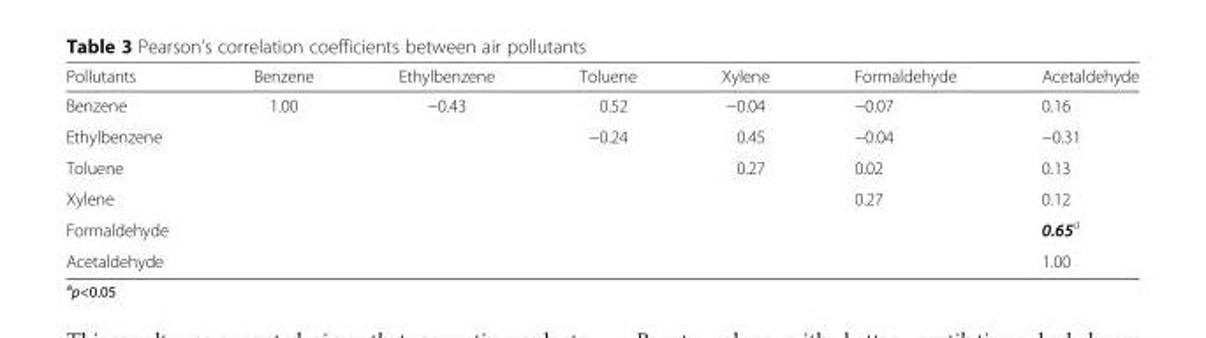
<table><thead><tr><td>Pollutants</td><td>Benzene</td><td>Ethylbenzene</td><td>Toluene</td><td>Xylene</td><td>Formaldehyde</td><td>Acetaldehyde</td></tr></thead><tbody><tr><td>Benzene</td><td>1.00</td><td>−0.43</td><td>0.52</td><td>−0.04</td><td>−0.07</td><td>0.16</td></tr><tr><td>Ethylbenzene</td><td></td><td></td><td>−0.24</td><td>0.45</td><td>−0.04</td><td>−0.31</td></tr><tr><td>Toluene</td><td></td><td></td><td></td><td>0.27</td><td>0.02</td><td>0.13</td></tr><tr><td>Xylene</td><td></td><td></td><td></td><td></td><td>0.27</td><td>0.12</td></tr><tr><td>Formaldehyde</td><td></td><td></td><td></td><td></td><td></td><td>0.65<sup>a</sup></td></tr><tr><td>Acetaldehyde</td><td></td><td></td><td></td><td></td><td></td><td>1.00</td></tr></tbody></table>